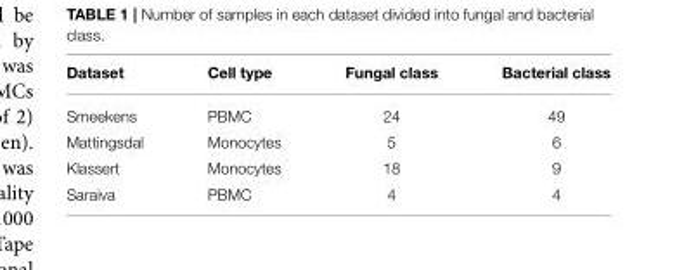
<table><thead><tr><td>Dataset</td><td>Cell type</td><td>Fungal class</td><td>Bacterial class</td></tr></thead><tbody><tr><td>Smeekens</td><td>PBMC</td><td>24</td><td>49</td></tr><tr><td>Mattingsdal</td><td>Monocytes</td><td>5</td><td>6</td></tr><tr><td>Klassert</td><td>Monocytes</td><td>18</td><td>9</td></tr><tr><td>Saraiva</td><td>PBMC</td><td>4</td><td>4</td></tr></tbody></table>